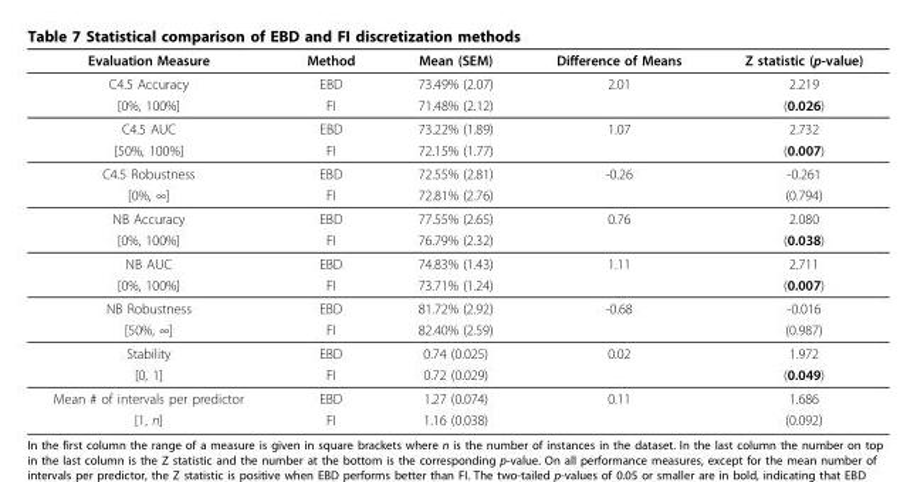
<table><thead><tr><td>Evaluation Measure</td><td>Method</td><td>Mean (SEM)</td><td>Difference of Means</td><td>Z statistic (p-value)</td></tr></thead><tbody><tr><td>C4.5 Accuracy</td><td>EBD</td><td>73.49% (2.07)</td><td>2.01</td><td>2.219</td></tr><tr><td>[0%, 100%]</td><td>FI</td><td>71.48% (2.12)</td><td></td><td>(0.026)</td></tr><tr><td>C4.5 AUC</td><td>EBD</td><td>73.22% (1.89)</td><td>1.07</td><td>2.732</td></tr><tr><td>[50%, 100%]</td><td>FI</td><td>72.15% (1.77)</td><td></td><td>(0.007)</td></tr><tr><td>C4.5 Robustness</td><td>EBD</td><td>72.55% (2.81)</td><td>-0.26</td><td>-0.261</td></tr><tr><td>[0%, ∞]</td><td>FI</td><td>72.81% (2.76)</td><td></td><td>(0.794)</td></tr><tr><td>NB Accuracy</td><td>EBD</td><td>77.55% (2.65)</td><td>0.76</td><td>2.080</td></tr><tr><td>[0%, 100%]</td><td>FI</td><td>76.79% (2.32)</td><td></td><td>(0.038)</td></tr><tr><td>NB AUC</td><td>EBD</td><td>74.83% (1.43)</td><td>1.11</td><td>2.711</td></tr><tr><td>[0%, 100%]</td><td>FI</td><td>73.71% (1.24)</td><td></td><td>(0.007)</td></tr><tr><td>NB Robustness</td><td>EBD</td><td>81.72% (2.92)</td><td>-0.68</td><td>-0.016</td></tr><tr><td>[50%, ∞]</td><td>FI</td><td>82.40% (2.59)</td><td></td><td>(0.987)</td></tr><tr><td>Stability</td><td>EBD</td><td>0.74 (0.025)</td><td>0.02</td><td>1.972</td></tr><tr><td>[0, 1]</td><td>FI</td><td>0.72 (0.029)</td><td></td><td>(0.049)</td></tr><tr><td>Mean # of intervals per predictor</td><td>EBD</td><td>1.27 (0.074)</td><td>0.11</td><td>1.686</td></tr><tr><td>[1, n]</td><td>FI</td><td>1.16 (0.038)</td><td></td><td>(0.092)</td></tr></tbody></table>